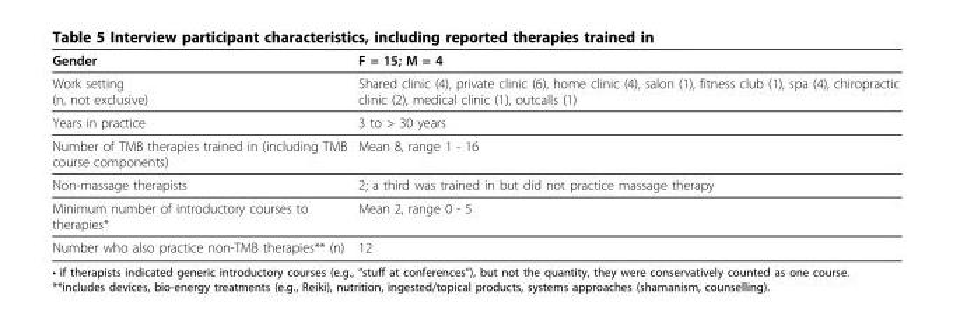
<table><thead><tr><td>Gender</td><td>F = 15; M = 4</td></tr></thead><tbody><tr><td>Work setting (n, not exclusive)</td><td>Shared clinic (4), private clinic (6), home clinic (4), salon (1), fitness club (1), spa (4), chiropractic clinic (2), medical clinic (1), outcalls (1)</td></tr><tr><td>Years in practice</td><td>3 to &gt; 30 years</td></tr><tr><td>Number of TMB therapies trained in (including TMB course components)</td><td>Mean 8, range 1 - 16</td></tr><tr><td>Non-massage therapists</td><td>2; a third was trained in but did not practice massage therapy</td></tr><tr><td>Minimum number of introductory courses to therapies*</td><td>Mean 2, range 0 - 5</td></tr><tr><td>Number who also practice non-TMB therapies** (n)</td><td>12</td></tr></tbody></table>